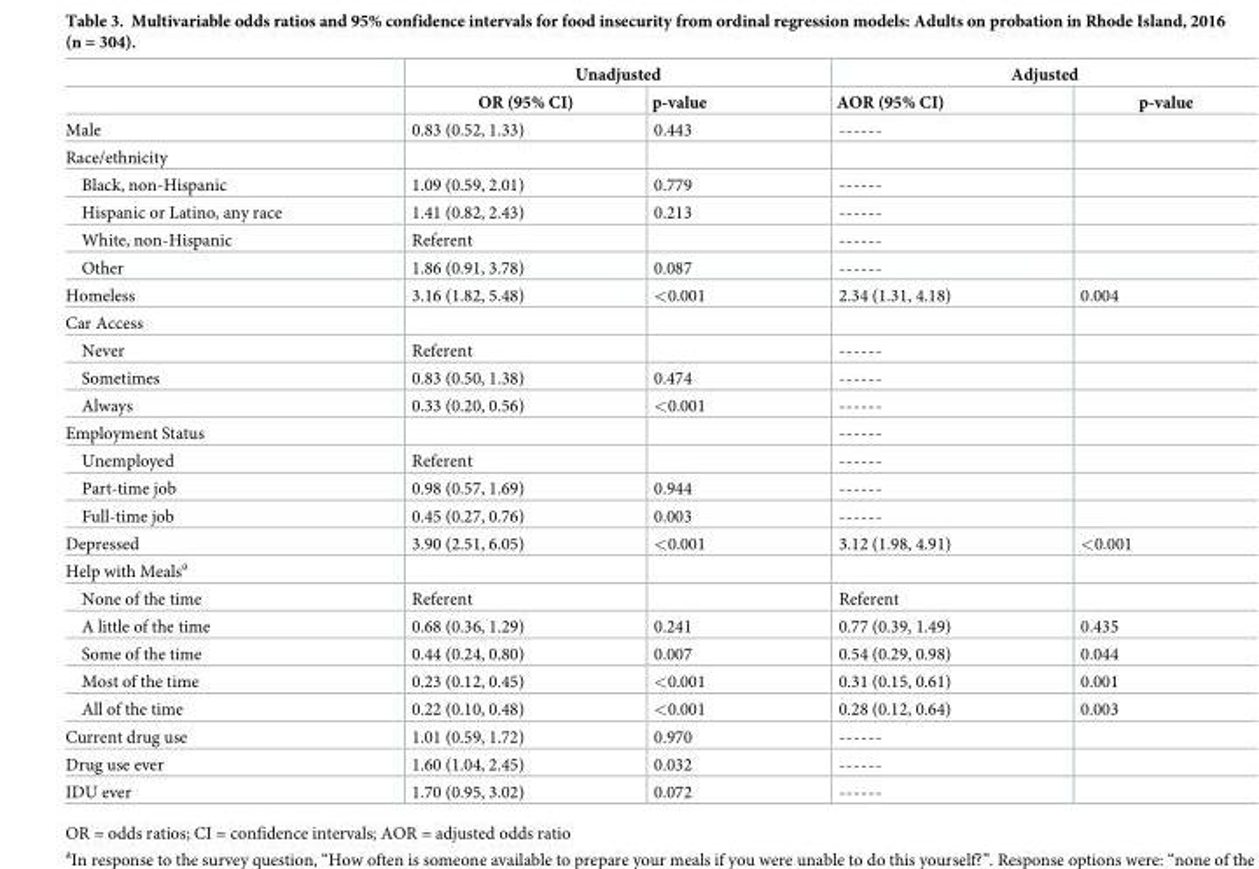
<table><thead><tr><td rowspan="2"></td><td colspan="2">Unadjusted</td><td colspan="2">Adjusted</td></tr><tr><td>OR (95% CI)</td><td>p-value</td><td>AOR (95% CI)</td><td>p-value</td></tr></thead><tbody><tr><td>Male</td><td>0.83 (0.52, 1.33)</td><td>0.443</td><td>------</td><td></td></tr><tr><td colspan="5">Race/ethnicity</td></tr><tr><td>Black, non-Hispanic</td><td>1.09 (0.59, 2.01)</td><td>0.779</td><td>------</td><td></td></tr><tr><td>Hispanic or Latino, any race</td><td>1.41 (0.82, 2.43)</td><td>0.213</td><td>------</td><td></td></tr><tr><td>White, non-Hispanic</td><td>Referent</td><td></td><td>------</td><td></td></tr><tr><td>Other</td><td>1.86 (0.91, 3.78)</td><td>0.087</td><td>------</td><td></td></tr><tr><td>Homeless</td><td>3.16 (1.82, 5.48)</td><td>&lt;0.001</td><td>2.34 (1.31, 4.18)</td><td>0.004</td></tr><tr><td colspan="5">Car Access</td></tr><tr><td>Never</td><td>Referent</td><td></td><td>------</td><td></td></tr><tr><td>Sometimes</td><td>0.83 (0.50, 1.38)</td><td>0.474</td><td>------</td><td></td></tr><tr><td>Always</td><td>0.33 (0.20, 0.56)</td><td>&lt;0.001</td><td>------</td><td></td></tr><tr><td>Employment Status</td><td></td><td></td><td>------</td><td></td></tr><tr><td>Unemployed</td><td>Referent</td><td></td><td>------</td><td></td></tr><tr><td>Part-time job</td><td>0.98 (0.57, 1.69)</td><td>0.944</td><td>------</td><td></td></tr><tr><td>Full-time job</td><td>0.45 (0.27, 0.76)</td><td>0.003</td><td>------</td><td></td></tr><tr><td>Depressed</td><td>3.90 (2.51, 6.05)</td><td>&lt;0.001</td><td>3.12 (1.98, 4.91)</td><td>&lt;0.001</td></tr><tr><td colspan="5">Help with Meals<sup>a</sup></td></tr><tr><td>None of the time</td><td>Referent</td><td></td><td>Referent</td><td></td></tr><tr><td>A little of the time</td><td>0.68 (0.36, 1.29)</td><td>0.241</td><td>0.77 (0.39, 1.49)</td><td>0.435</td></tr><tr><td>Some of the time</td><td>0.44 (0.24, 0.80)</td><td>0.007</td><td>0.54 (0.29, 0.98)</td><td>0.044</td></tr><tr><td>Most of the time</td><td>0.23 (0.12, 0.45)</td><td>&lt;0.001</td><td>0.31 (0.15, 0.61)</td><td>0.001</td></tr><tr><td>All of the time</td><td>0.22 (0.10, 0.48)</td><td>&lt;0.001</td><td>0.28 (0.12, 0.64)</td><td>0.003</td></tr><tr><td>Current drug use</td><td>1.01 (0.59, 1.72)</td><td>0.970</td><td>------</td><td></td></tr><tr><td>Drug use ever</td><td>1.60 (1.04, 2.45)</td><td>0.032</td><td>------</td><td></td></tr><tr><td>IDU ever</td><td>1.70 (0.95, 3.02)</td><td>0.072</td><td>------</td><td></td></tr></tbody></table>